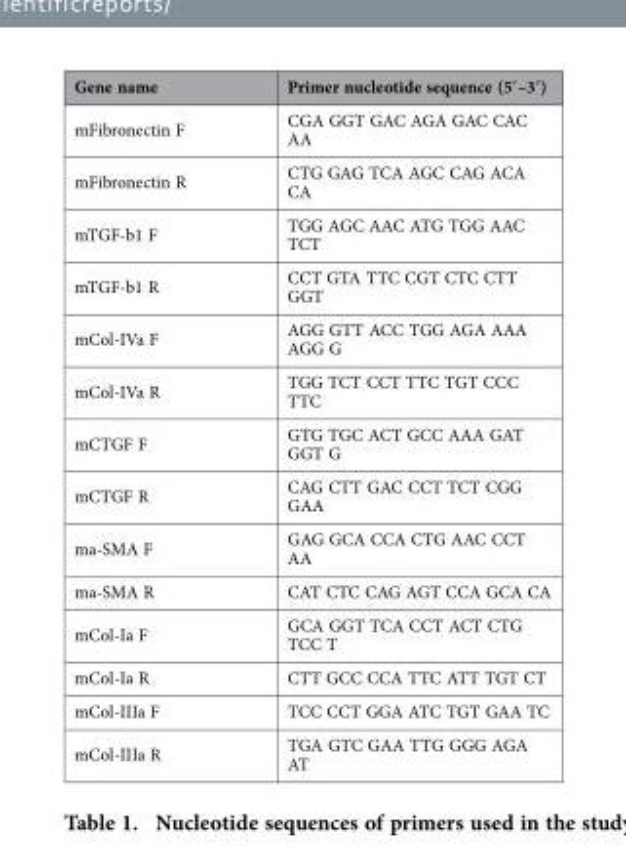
<table><thead><tr><td>Gene name</td><td>Primer nucleotide sequence (5′–3′)</td></tr></thead><tbody><tr><td>mFibronectin F</td><td>CGA GGT GAC AGA GAC CAC AA</td></tr><tr><td>mFibronectin R</td><td>CTG GAG TCA AGC CAG ACA CA</td></tr><tr><td>mTGF-b1 F</td><td>TGG AGC AAC ATG TGG AAC TCT</td></tr><tr><td>mTGF-b1 R</td><td>CCT GTA TTC CGT CTC CTT GGT</td></tr><tr><td>mCol-IVa F</td><td>AGG GTT ACC TGG AGA AAA AGG G</td></tr><tr><td>mCol-IVa R</td><td>TGG TCT CCT TTC TGT CCC TTC</td></tr><tr><td>mCTGF F</td><td>GTG TGC ACT GCC AAA GAT GGT G</td></tr><tr><td>mCTGF R</td><td>CAG CTT GAC CCT TCT CGG GAA</td></tr><tr><td>ma-SMA F</td><td>GAG GCA CCA CTG AAC CCT AA</td></tr><tr><td>ma-SMA R</td><td>CAT CTC CAG AGT CCA GCA CA</td></tr><tr><td>mCol-Ia F</td><td>GCA GGT TCA CCT ACT CTG TCC T</td></tr><tr><td>mCol-Ia R</td><td>CTT GCC CCA TTC ATT TGT CT</td></tr><tr><td>mCol-IIIa F</td><td>TCC CCT GGA ATC TGT GAA TC</td></tr><tr><td>mCol-IIIa R</td><td>TGA GTC GAA TTG GGG AGA AT</td></tr></tbody></table>